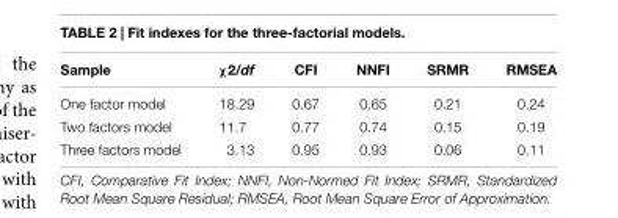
<table><thead><tr><td>Sample</td><td>χ2/df</td><td>CFI</td><td>NNFI</td><td>SRMR</td><td>RMSEA</td></tr></thead><tbody><tr><td>One factor model</td><td>18.29</td><td>0.67</td><td>0.65</td><td>0.21</td><td>0.24</td></tr><tr><td>Two factors model</td><td>11.7</td><td>0.77</td><td>0.74</td><td>0.15</td><td>0.19</td></tr><tr><td>Three factors model</td><td>3.13</td><td>0.95</td><td>0.93</td><td>0.06</td><td>0.11</td></tr></tbody></table>